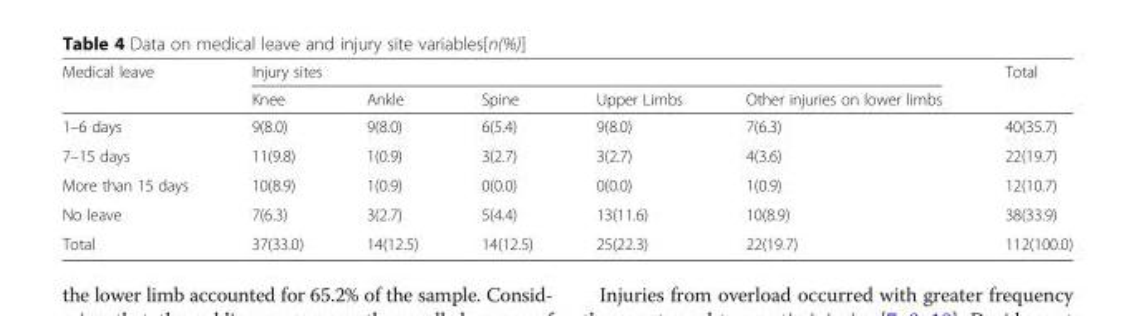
<table><thead><tr><td rowspan="2">Medical leave</td><td colspan="5">Injury sites</td><td rowspan="2">Total</td></tr><tr><td>Knee</td><td>Ankle</td><td>Spine</td><td>Upper Limbs</td><td>Other injuries on lower limbs</td></tr></thead><tbody><tr><td>1–6 days</td><td>9(8.0)</td><td>9(8.0)</td><td>6(5.4)</td><td>9(8.0)</td><td>7(6.3)</td><td>40(35.7)</td></tr><tr><td>7–15 days</td><td>11(9.8)</td><td>1(0.9)</td><td>3(2.7)</td><td>3(2.7)</td><td>4(3.6)</td><td>22(19.7)</td></tr><tr><td>More than 15 days</td><td>10(8.9)</td><td>1(0.9)</td><td>0(0.0)</td><td>0(0.0)</td><td>1(0.9)</td><td>12(10.7)</td></tr><tr><td>No leave</td><td>7(6.3)</td><td>3(2.7)</td><td>5(4.4)</td><td>13(11.6)</td><td>10(8.9)</td><td>38(33.9)</td></tr><tr><td>Total</td><td>37(33.0)</td><td>14(12.5)</td><td>14(12.5)</td><td>25(22.3)</td><td>22(19.7)</td><td>112(100.0)</td></tr></tbody></table>